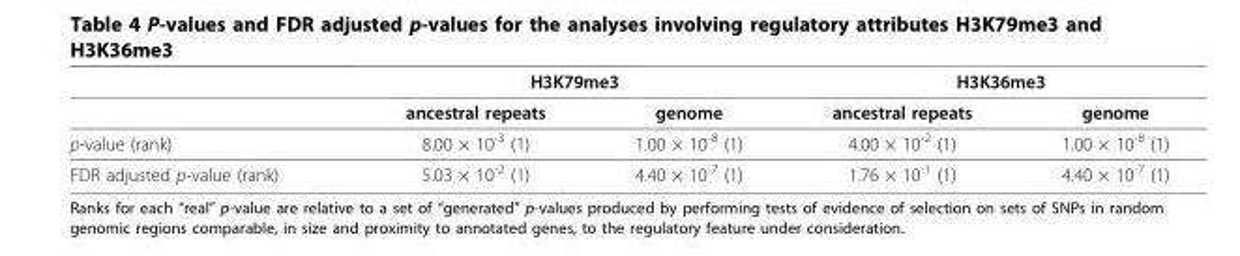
<table><thead><tr><td rowspan="2"></td><td colspan="2">H3K79me3</td><td colspan="2">H3K36me3</td></tr><tr><td>ancestral repeats</td><td>genome</td><td>ancestral repeats</td><td>genome</td></tr></thead><tbody><tr><td>p-value (rank)</td><td>8.00 × 10<sup>-3</sup> (1)</td><td>1.00 × 10<sup>-8</sup> (1)</td><td>4.00 × 10<sup>-2</sup> (1)</td><td>1.00 × 10<sup>-8</sup> (1)</td></tr><tr><td>FDR adjusted p-value (rank)</td><td>5.03 × 10<sup>-2</sup> (1)</td><td>4.40 × 10<sup>-7</sup> (1)</td><td>1.76 × 10<sup>-1</sup> (1)</td><td>4.40 × 10<sup>-7</sup> (1)</td></tr></tbody></table>